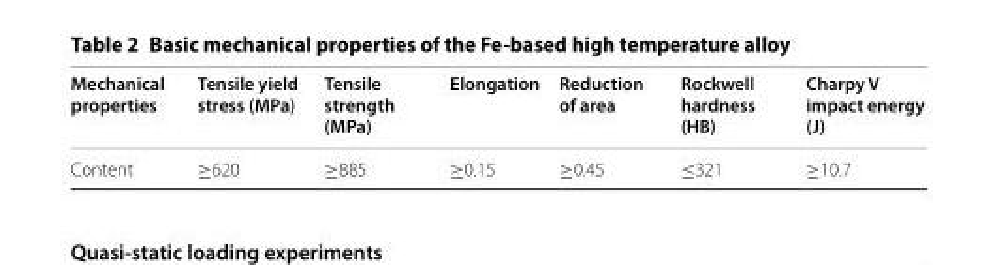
<table><thead><tr><td>Mechanical properties</td><td>Tensile yield stress (MPa)</td><td>Tensile strength (MPa)</td><td>Elongation</td><td>Reduction of area</td><td>Rockwell hardness (HB)</td><td>Charpy V impact energy (J)</td></tr></thead><tbody><tr><td>Content</td><td>≥620</td><td>≥885</td><td>≥0.15</td><td>≥0.45</td><td>≤321</td><td>≥10.7</td></tr></tbody></table>